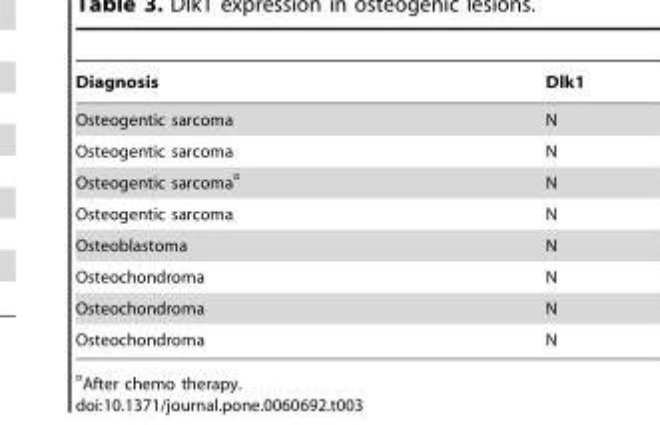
<table><thead><tr><td>Diagnosis</td><td>Dlk1</td></tr></thead><tbody><tr><td>Osteogentic sarcoma</td><td>N</td></tr><tr><td>Osteogentic sarcoma</td><td>N</td></tr><tr><td>Osteogentic sarcoma¤</td><td>N</td></tr><tr><td>Osteogentic sarcoma</td><td>N</td></tr><tr><td>Osteoblastoma</td><td>N</td></tr><tr><td>Osteochondroma</td><td>N</td></tr><tr><td>Osteochondroma</td><td>N</td></tr><tr><td>Osteochondroma</td><td>N</td></tr></tbody></table>